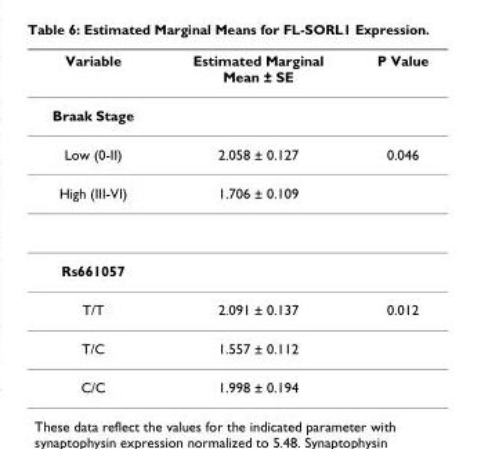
<table><thead><tr><td>Variable</td><td>Estimated Marginal Mean ± SE</td><td>P Value</td></tr></thead><tbody><tr><td colspan="3">Braak Stage</td></tr><tr><td>Low (0-II)</td><td>2.058 ± 0.127</td><td>0.046</td></tr><tr><td>High (III-VI)</td><td>1.706 ± 0.109</td><td></td></tr><tr><td colspan="3">Rs661057</td></tr><tr><td>T/T</td><td>2.091 ± 0.137</td><td>0.012</td></tr><tr><td>T/C</td><td>1.557 ± 0.112</td><td></td></tr><tr><td>C/C</td><td>1.998 ± 0.194</td><td></td></tr></tbody></table>